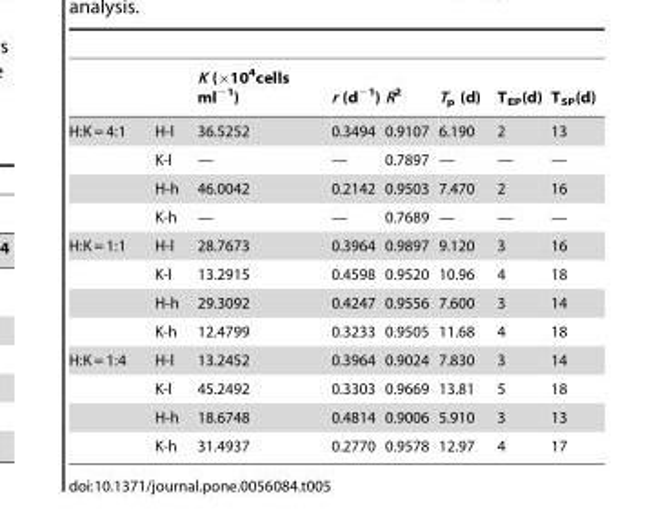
<table><thead><tr><td></td><td></td><td>K (×10<sup>4</sup>cells ml<sup>−1</sup>)</td><td>r (d<sup>−1</sup>)</td><td>R<sup>2</sup></td><td>T<sub>p</sub> (d)</td><td>T<sub>EP</sub>(d)</td><td>T<sub>SP</sub>(d)</td></tr></thead><tbody><tr><td rowspan="4">H:K = 4:1</td><td>H-l</td><td>36.5252</td><td>0.3494</td><td>0.9107</td><td>6.190</td><td>2</td><td>13</td></tr><tr><td>K-l</td><td>—</td><td>—</td><td>0.7897</td><td>—</td><td>—</td><td>—</td></tr><tr><td>H-h</td><td>46.0042</td><td>0.2142</td><td>0.9503</td><td>7.470</td><td>2</td><td>16</td></tr><tr><td>K-h</td><td>—</td><td>—</td><td>0.7689</td><td>—</td><td>—</td><td>—</td></tr><tr><td rowspan="4">H:K = 1:1</td><td>H-l</td><td>28.7673</td><td>0.3964</td><td>0.9897</td><td>9.120</td><td>3</td><td>16</td></tr><tr><td>K-l</td><td>13.2915</td><td>0.4598</td><td>0.9520</td><td>10.96</td><td>4</td><td>18</td></tr><tr><td>H-h</td><td>29.3092</td><td>0.4247</td><td>0.9556</td><td>7.600</td><td>3</td><td>14</td></tr><tr><td>K-h</td><td>12.4799</td><td>0.3233</td><td>0.9505</td><td>11.68</td><td>4</td><td>18</td></tr><tr><td rowspan="4">H:K = 1:4</td><td>H-l</td><td>13.2452</td><td>0.3964</td><td>0.9024</td><td>7.830</td><td>3</td><td>14</td></tr><tr><td>K-l</td><td>45.2492</td><td>0.3303</td><td>0.9669</td><td>13.81</td><td>5</td><td>18</td></tr><tr><td>H-h</td><td>18.6748</td><td>0.4814</td><td>0.9006</td><td>5.910</td><td>3</td><td>13</td></tr><tr><td>K-h</td><td>31.4937</td><td>0.2770</td><td>0.9578</td><td>12.97</td><td>4</td><td>17</td></tr></tbody></table>